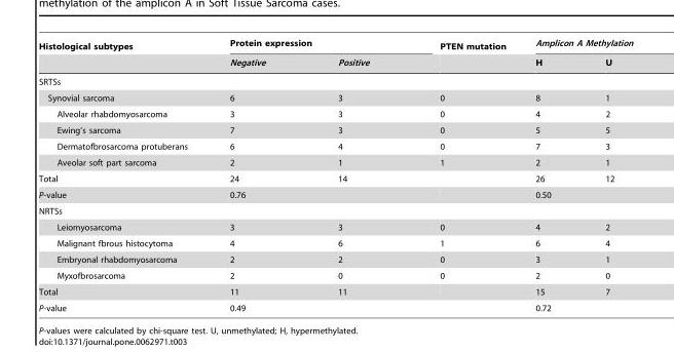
<table><thead><tr><td rowspan="2">Histological subtypes</td><td colspan="2">Protein expression</td><td rowspan="2">PTEN mutation</td><td colspan="2">Amplicon A Methylation</td></tr><tr><td>Negative</td><td>Positive</td><td>H</td><td>U</td></tr></thead><tbody><tr><td colspan="6">SRTSs</td></tr><tr><td>Synovial sarcoma</td><td>6</td><td>3</td><td>0</td><td>8</td><td>1</td></tr><tr><td>Alveolar rhabdomyosarcoma</td><td>3</td><td>3</td><td>0</td><td>4</td><td>2</td></tr><tr><td>Ewing’s sarcoma</td><td>7</td><td>3</td><td>0</td><td>5</td><td>5</td></tr><tr><td>Dermatofbrosarcoma protuberans</td><td>6</td><td>4</td><td>0</td><td>7</td><td>3</td></tr><tr><td>Aveolar soft part sarcoma</td><td>2</td><td>1</td><td>1</td><td>2</td><td>1</td></tr><tr><td>Total</td><td>24</td><td>14</td><td></td><td>26</td><td>12</td></tr><tr><td>P-value</td><td colspan="2">0.76</td><td></td><td colspan="2">0.50</td></tr><tr><td colspan="6">NRTSs</td></tr><tr><td>Leiomyosarcoma</td><td>3</td><td>3</td><td>0</td><td>4</td><td>2</td></tr><tr><td>Malignant fbrous histocytoma</td><td>4</td><td>6</td><td>1</td><td>6</td><td>4</td></tr><tr><td>Embryonal rhabdomyosarcoma</td><td>2</td><td>2</td><td>0</td><td>3</td><td>1</td></tr><tr><td>Myxofbrosarcoma</td><td>2</td><td>0</td><td>0</td><td>2</td><td>0</td></tr><tr><td>Total</td><td>11</td><td>11</td><td></td><td>15</td><td>7</td></tr><tr><td>P-value</td><td colspan="2">0.49</td><td></td><td colspan="2">0.72</td></tr></tbody></table>